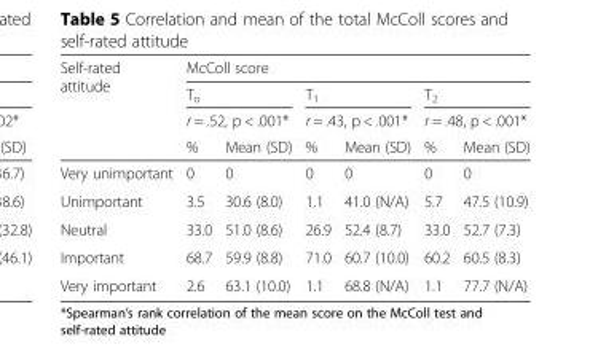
<table><thead><tr><td rowspan="4">Self-rated attitude</td><td colspan="6">McColl score</td></tr><tr><td rowspan="2" colspan="2">T<sub>o</sub> r = .52, p &lt; .001*</td><td rowspan="2" colspan="2">T<sub>1</sub> r = .43, p &lt; .001*</td><td rowspan="2" colspan="2">T<sub>2</sub> r = .48, p &lt; .001*</td></tr><tr></tr><tr><td>%</td><td>Mean (SD)</td><td>%</td><td>Mean (SD)</td><td>%</td><td>Mean (SD)</td></tr></thead><tbody><tr><td>Very unimportant</td><td>0</td><td>0</td><td>0</td><td>0</td><td>0</td><td>0</td></tr><tr><td>Unimportant</td><td>3.5</td><td>30.6 (8.0)</td><td>1.1</td><td>41.0 (N/A)</td><td>5.7</td><td>47.5 (10.9)</td></tr><tr><td>Neutral</td><td>33.0</td><td>51.0 (8.6)</td><td>26.9</td><td>52.4 (8.7)</td><td>33.0</td><td>52.7 (7.3)</td></tr><tr><td>Important</td><td>68.7</td><td>59.9 (8.8)</td><td>71.0</td><td>60.7 (10.0)</td><td>60.2</td><td>60.5 (8.3)</td></tr><tr><td>Very important</td><td>2.6</td><td>63.1 (10.0)</td><td>1.1</td><td>68.8 (N/A)</td><td>1.1</td><td>77.7 (N/A)</td></tr></tbody></table>